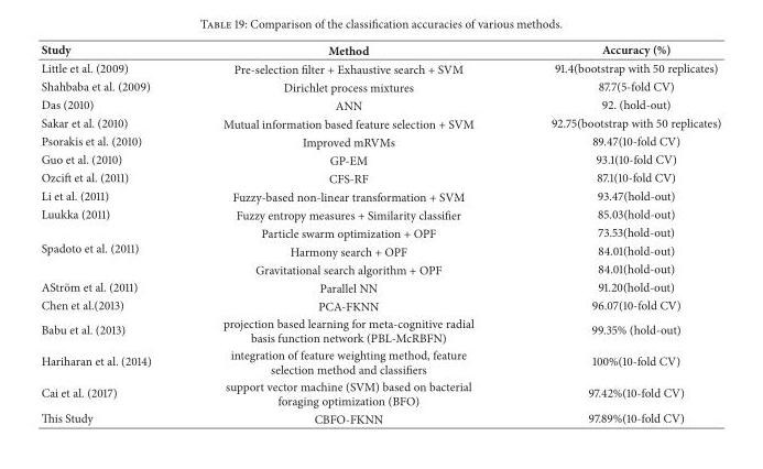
<table><thead><tr><td>Study</td><td>Method</td><td>Accuracy (%)</td></tr></thead><tbody><tr><td>Little et al. (2009)</td><td>Pre-selection filter + Exhaustive search + SVM</td><td>91.4(bootstrap with 50 replicates)</td></tr><tr><td>Shahbaba et al. (2009)</td><td>Dirichlet process mixtures</td><td>87.7(5-fold CV)</td></tr><tr><td>Das (2010)</td><td>ANN</td><td>92. (hold-out)</td></tr><tr><td>Sakar et al. (2010)</td><td>Mutual information based feature selection + SVM</td><td>92.75(bootstrap with 50 replicates)</td></tr><tr><td>Psorakis et al. (2010)</td><td>Improved mRVMs</td><td>89.47(10-fold CV)</td></tr><tr><td>Guo et al. (2010)</td><td>GP-EM</td><td>93.1(10-fold CV)</td></tr><tr><td>Ozcift et al. (2011)</td><td>CFS-RF</td><td>87.1(10-fold CV)</td></tr><tr><td>Li et al. (2011)</td><td>Fuzzy-based non-linear transformation + SVM</td><td>93.47(hold-out)</td></tr><tr><td>Luukka (2011)</td><td>Fuzzy entropy measures + Similarity classifier</td><td>85.03(hold-out)</td></tr><tr><td rowspan="3">Spadoto et al. (2011)</td><td>Particle swarm optimization + OPF</td><td>73.53(hold-out)</td></tr><tr><td>Harmony search + OPF</td><td>84.01(hold-out)</td></tr><tr><td>Gravitational search algorithm + OPF</td><td>84.01(hold-out)</td></tr><tr><td>AStr¨om et al. (2011)</td><td>Parallel NN</td><td>91.20(hold-out)</td></tr><tr><td>Chen et al.(2013)</td><td>PCA-FKNN</td><td>96.07(10-fold CV)</td></tr><tr><td>Babu et al. (2013)</td><td>projection based learning for meta-cognitive radial basis function network (PBL-McRBFN)</td><td>99.35% (hold-out)</td></tr><tr><td>Hariharan et al. (2014)</td><td>integration of feature weighting method, feature selection method and classifiers</td><td>100%(10-fold CV)</td></tr><tr><td>Cai et al. (2017)</td><td>support vector machine (SVM) based on bacterial foraging optimization (BFO)</td><td>97.42%(10-fold CV)</td></tr><tr><td>This Study</td><td>CBFO-FKNN</td><td>97.89%(10-fold CV)</td></tr></tbody></table>